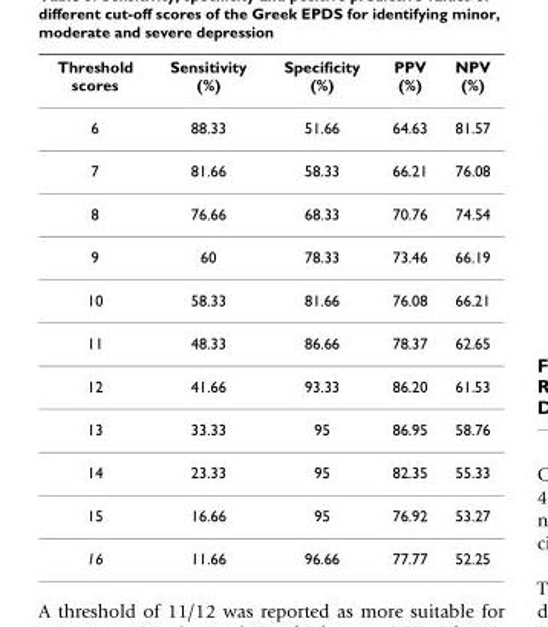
<table><thead><tr><td>Threshold scores</td><td>Sensitivity (%)</td><td>Specificity (%)</td><td>PPV (%)</td><td>NPV (%)</td></tr></thead><tbody><tr><td>6</td><td>88.33</td><td>51.66</td><td>64.63</td><td>81.57</td></tr><tr><td>7</td><td>81.66</td><td>58.33</td><td>66.21</td><td>76.08</td></tr><tr><td>8</td><td>76.66</td><td>68.33</td><td>70.76</td><td>74.54</td></tr><tr><td>9</td><td>60</td><td>78.33</td><td>73.46</td><td>66.19</td></tr><tr><td>10</td><td>58.33</td><td>81.66</td><td>76.08</td><td>66.21</td></tr><tr><td>11</td><td>48.33</td><td>86.66</td><td>78.37</td><td>62.65</td></tr><tr><td>12</td><td>41.66</td><td>93.33</td><td>86.20</td><td>61.53</td></tr><tr><td>13</td><td>33.33</td><td>95</td><td>86.95</td><td>58.76</td></tr><tr><td>14</td><td>23.33</td><td>95</td><td>82.35</td><td>55.33</td></tr><tr><td>15</td><td>16.66</td><td>95</td><td>76.92</td><td>53.27</td></tr><tr><td>16</td><td>11.66</td><td>96.66</td><td>77.77</td><td>52.25</td></tr></tbody></table>